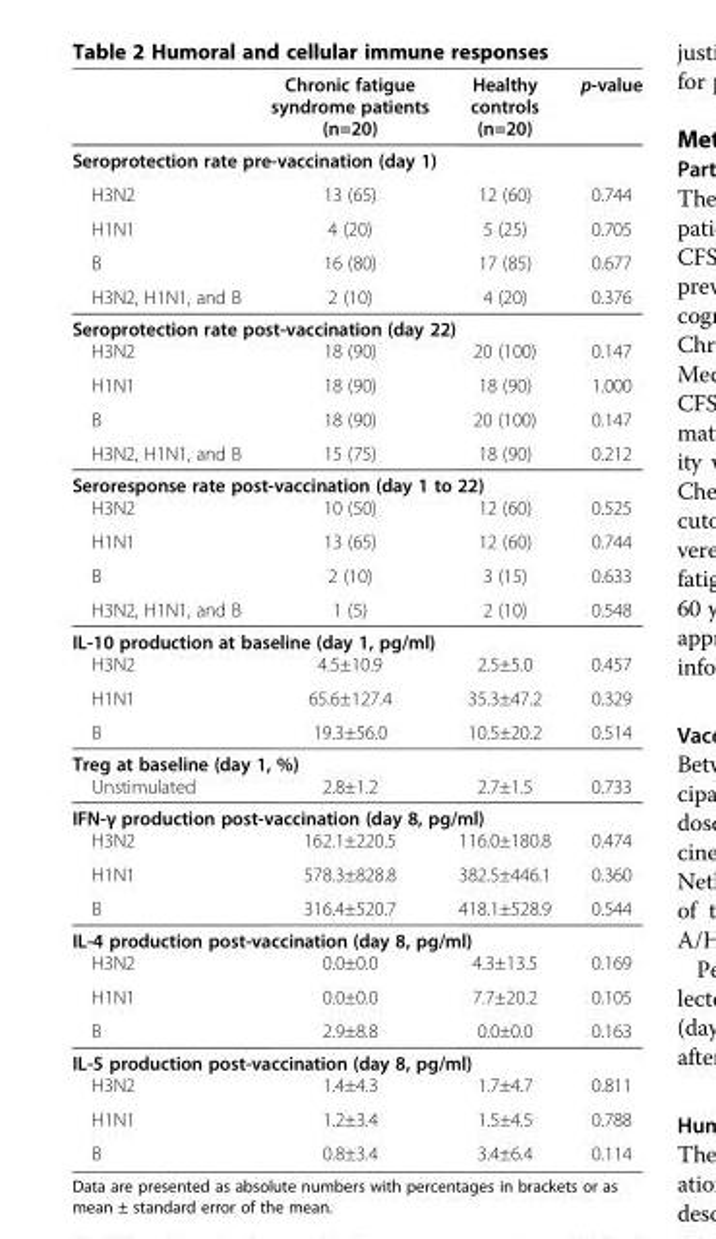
<table><thead><tr><td></td><td>Chronic fatigue syndrome patients (n=20)</td><td>Healthy controls (n=20)</td><td>p-value</td></tr></thead><tbody><tr><td colspan="4">Seroprotection rate pre-vaccination (day 1)</td></tr><tr><td>H3N2</td><td>13 (65)</td><td>12 (60)</td><td>0.744</td></tr><tr><td>H1N1</td><td>4 (20)</td><td>5 (25)</td><td>0.705</td></tr><tr><td>B</td><td>16 (80)</td><td>17 (85)</td><td>0.677</td></tr><tr><td>H3N2, H1N1, and B</td><td>2 (10)</td><td>4 (20)</td><td>0.376</td></tr><tr><td colspan="4">Seroprotection rate post-vaccination (day 22)</td></tr><tr><td>H3N2</td><td>18 (90)</td><td>20 (100)</td><td>0.147</td></tr><tr><td>H1N1</td><td>18 (90)</td><td>18 (90)</td><td>1.000</td></tr><tr><td>B</td><td>18 (90)</td><td>20 (100)</td><td>0.147</td></tr><tr><td>H3N2, H1N1, and B</td><td>15 (75)</td><td>18 (90)</td><td>0.212</td></tr><tr><td colspan="4">Seroresponse rate post-vaccination (day 1 to 22)</td></tr><tr><td>H3N2</td><td>10 (50)</td><td>12 (60)</td><td>0.525</td></tr><tr><td>H1N1</td><td>13 (65)</td><td>12 (60)</td><td>0.744</td></tr><tr><td>B</td><td>2 (10)</td><td>3 (15)</td><td>0.633</td></tr><tr><td>H3N2, H1N1, and B</td><td>1 (5)</td><td>2 (10)</td><td>0.548</td></tr><tr><td colspan="4">IL-10 production at baseline (day 1, pg/ml)</td></tr><tr><td>H3N2</td><td>4.5±10.9</td><td>2.5±5.0</td><td>0.457</td></tr><tr><td>H1N1</td><td>65.6±127.4</td><td>35.3±47.2</td><td>0.329</td></tr><tr><td>B</td><td>19.3±56.0</td><td>10.5±20.2</td><td>0.514</td></tr><tr><td colspan="4">Treg at baseline (day 1, %)</td></tr><tr><td>Unstimulated</td><td>2.8±1.2</td><td>2.7±1.5</td><td>0.733</td></tr><tr><td colspan="4">IFN-γ production post-vaccination (day 8, pg/ml)</td></tr><tr><td>H3N2</td><td>162.1±220.5</td><td>116.0±180.8</td><td>0.474</td></tr><tr><td>H1N1</td><td>578.3±828.8</td><td>382.5±446.1</td><td>0.360</td></tr><tr><td>B</td><td>316.4±520.7</td><td>418.1±528.9</td><td>0.544</td></tr><tr><td colspan="4">IL-4 production post-vaccination (day 8, pg/ml)</td></tr><tr><td>H3N2</td><td>0.0±0.0</td><td>4.3±13.5</td><td>0.169</td></tr><tr><td>H1N1</td><td>0.0±0.0</td><td>7.7±20.2</td><td>0.105</td></tr><tr><td>B</td><td>2.9±8.8</td><td>0.0±0.0</td><td>0.163</td></tr><tr><td colspan="4">IL-5 production post-vaccination (day 8, pg/ml)</td></tr><tr><td>H3N2</td><td>1.4±4.3</td><td>1.7±4.7</td><td>0.811</td></tr><tr><td>H1N1</td><td>1.2±3.4</td><td>1.5±4.5</td><td>0.788</td></tr><tr><td>B</td><td>0.8±3.4</td><td>3.4±6.4</td><td>0.114</td></tr></tbody></table>